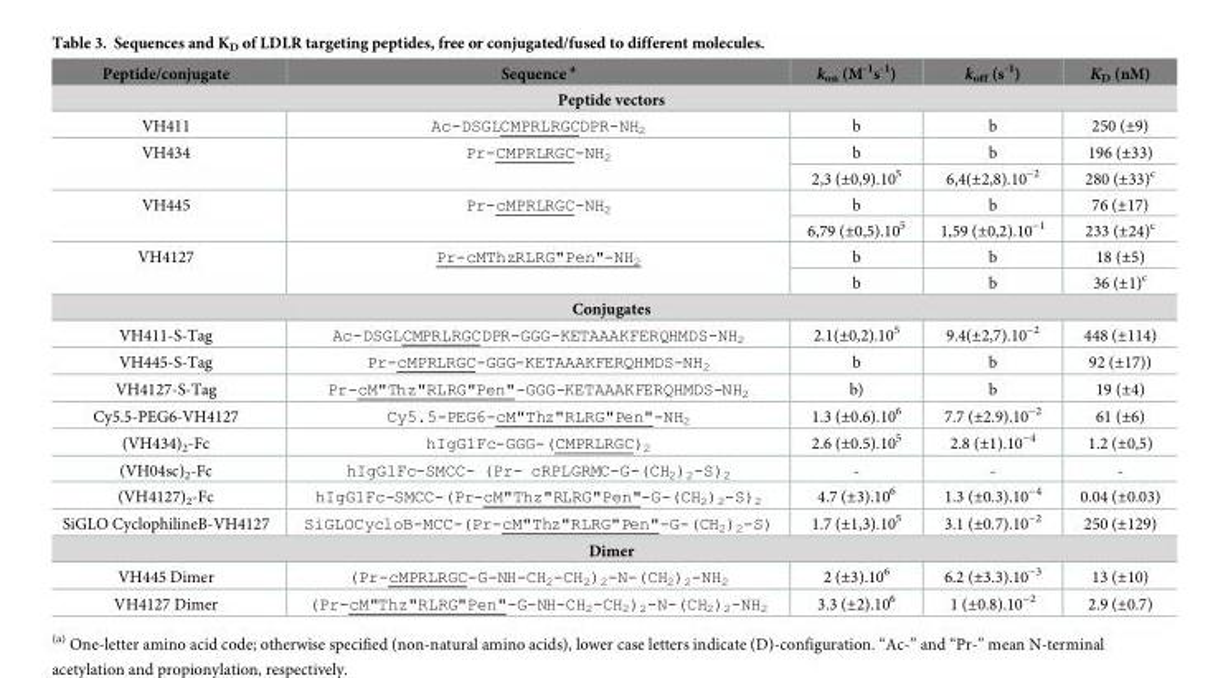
<table><thead><tr><td>Peptide/conjugate</td><td>Sequence <sup>a</sup></td><td>k<sub>on</sub> (M<sup>-1</sup>s<sup>-1</sup>)</td><td>k<sub>off</sub> (s<sup>-1</sup>)</td><td>K<sub>D</sub> (nM)</td></tr></thead><tbody><tr><td colspan="5">Peptide vectors</td></tr><tr><td>VH411</td><td>Ac-DSGLCMPRLRGCDPR-NH<sub>2</sub></td><td>b</td><td>b</td><td>250 (±9)</td></tr><tr><td rowspan="2">VH434</td><td rowspan="2">Pr-CMPRLRGC-NH<sub>2</sub></td><td>b</td><td>b</td><td>196 (±33)</td></tr><tr><td>2,3 (±0,9).10<sup>5</sup></td><td>6,4(±2,8).10<sup>−2</sup></td><td>280 (±33)<sup>c</sup></td></tr><tr><td rowspan="2">VH445</td><td rowspan="2">Pr-cMPRLRGC-NH<sub>2</sub></td><td>b</td><td>b</td><td>76 (±17)</td></tr><tr><td>6,79 (±0,5).10<sup>5</sup></td><td>1,59 (±0,2).10<sup>−1</sup></td><td>233 (±24)<sup>c</sup></td></tr><tr><td rowspan="2">VH4127</td><td rowspan="2">Pr-cMThzRLRG&quot;Pen&quot;-NH<sub>2</sub></td><td>b</td><td>b</td><td>18 (±5)</td></tr><tr><td>b</td><td>b</td><td>36 (±1)<sup>c</sup></td></tr><tr><td colspan="5">Conjugates</td></tr><tr><td>VH411-S-Tag</td><td>Ac-DSGLCMPRLRGCDPR-GGG-KETAAAKFERQHMDS-NH<sub>2</sub></td><td>2.1(±0,2).10<sup>5</sup></td><td>9.4(±2,7).10<sup>−2</sup></td><td>448 (±114)</td></tr><tr><td>VH445-S-Tag</td><td>Pr-cMPRLRGC-GGG-KETAAAKFERQHMDS-NH<sub>2</sub></td><td>b</td><td>b</td><td>92 (±17))</td></tr><tr><td>VH4127-S-Tag</td><td>Pr-cM&quot;Thz&quot;RLRG&quot;Pen&quot;-GGG-KETAAAKFERQHMDS-NH<sub>2</sub></td><td>b)</td><td>b</td><td>19 (±4)</td></tr><tr><td>Cy5.5-PEG6-VH4127</td><td>Cy5.5-PEG6-cM&quot;Thz&quot;RLRG&quot;Pen&quot;-NH<sub>2</sub></td><td>1.3 (±0.6).10<sup>6</sup></td><td>7.7 (±2.9).10<sup>−2</sup></td><td>61 (±6)</td></tr><tr><td>(VH434)<sub>2</sub>-Fc</td><td>hIgG1Fc-GGG-(CMPRLRGC)<sub>2</sub></td><td>2.6 (±0.5).10<sup>5</sup></td><td>2.8 (±1).10<sup>−4</sup></td><td>1.2 (±0,5)</td></tr><tr><td>(VH04sc)<sub>2</sub>-Fc</td><td>hIgG1Fc-SMCC- (Pr- cRPLGRMC-G-(CH<sub>2</sub>)<sub>2</sub>-S)<sub>2</sub></td><td>-</td><td>-</td><td>-</td></tr><tr><td>(VH4127)<sub>2</sub>-Fc</td><td>hIgG1Fc-SMCC-(Pr-cM&quot;Thz&quot;RLRG&quot;Pen&quot;-G-(CH<sub>2</sub>)<sub>2</sub>-S)<sub>2</sub></td><td>4.7 (±3).10<sup>6</sup></td><td>1.3 (±0.3).10<sup>−4</sup></td><td>0.04 (±0.03)</td></tr><tr><td>SiGLO CyclophilineB-VH4127</td><td>SiGLOCycloB-MCC-(Pr-cM&quot;Thz&quot;RLRG&quot;Pen&quot;-G-(CH<sub>2</sub>)<sub>2</sub>-S)</td><td>1.7 (±1,3).10<sup>5</sup></td><td>3.1 (±0.7).10<sup>−2</sup></td><td>250 (±129)</td></tr><tr><td colspan="5">Dimer</td></tr><tr><td>VH445 Dimer</td><td>(Pr-cMPRLRGC-G-NH-CH<sub>2</sub>-CH<sub>2</sub>)<sub>2</sub>-N-(CH<sub>2</sub>)<sub>2</sub>-NH<sub>2</sub></td><td>2 (±3).10<sup>6</sup></td><td>6.2 (±3.3).10<sup>−3</sup></td><td>13 (±10)</td></tr><tr><td>VH4127 Dimer</td><td>(Pr-cM&quot;Thz&quot;RLRG&quot;Pen&quot;-G-NH-CH<sub>2</sub>-CH<sub>2</sub>)<sub>2</sub>-N-(CH<sub>2</sub>)<sub>2</sub>-NH<sub>2</sub></td><td>3.3 (±2).10<sup>6</sup></td><td>1 (±0.8).10<sup>−2</sup></td><td>2.9 (±0.7)</td></tr></tbody></table>